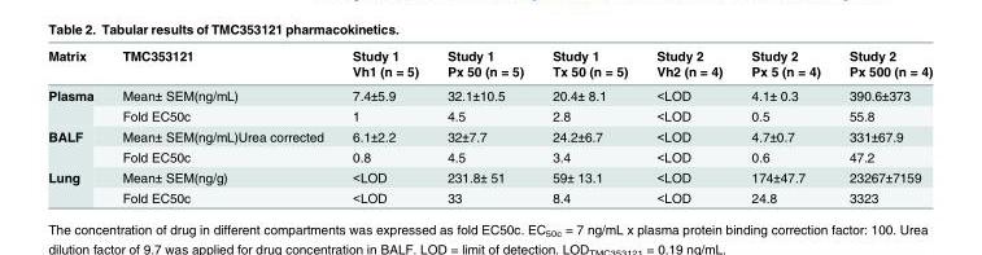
<table><thead><tr><td rowspan="2">Matrix</td><td rowspan="2">TMC353121</td><td rowspan="2">Study 1 Vh1 (n = 5)</td><td rowspan="2">Study 1 Px 50 (n = 5)</td><td rowspan="2">Study 1 Tx 50 (n = 5)</td><td rowspan="2">Study 2 Vh2 (n = 4)</td><td rowspan="2">Study 2 Px 5 (n = 4)</td><td rowspan="2">Study 2 Px 500 (n = 4)</td></tr><tr></tr></thead><tbody><tr><td rowspan="2">Plasma</td><td>Mean± SEM(ng/mL)</td><td>7.4±5.9</td><td>32.1±10.5</td><td>20.4± 8.1</td><td>&lt;LOD</td><td>4.1± 0.3</td><td>390.6±373</td></tr><tr><td>Fold EC50c</td><td>1</td><td>4.5</td><td>2.8</td><td>&lt;LOD</td><td>0.5</td><td>55.8</td></tr><tr><td rowspan="2">BALF</td><td>Mean± SEM(ng/mL)Urea corrected</td><td>6.1±2.2</td><td>32±7.7</td><td>24.2±6.7</td><td>&lt;LOD</td><td>4.7±0.7</td><td>331±67.9</td></tr><tr><td>Fold EC50c</td><td>0.8</td><td>4.5</td><td>3.4</td><td>&lt;LOD</td><td>0.6</td><td>47.2</td></tr><tr><td rowspan="2">Lung</td><td>Mean± SEM(ng/g)</td><td>&lt;LOD</td><td>231.8± 51</td><td>59± 13.1</td><td>&lt;LOD</td><td>174±47.7</td><td>23267±7159</td></tr><tr><td>Fold EC50c</td><td>&lt;LOD</td><td>33</td><td>8.4</td><td>&lt;LOD</td><td>24.8</td><td>3323</td></tr></tbody></table>